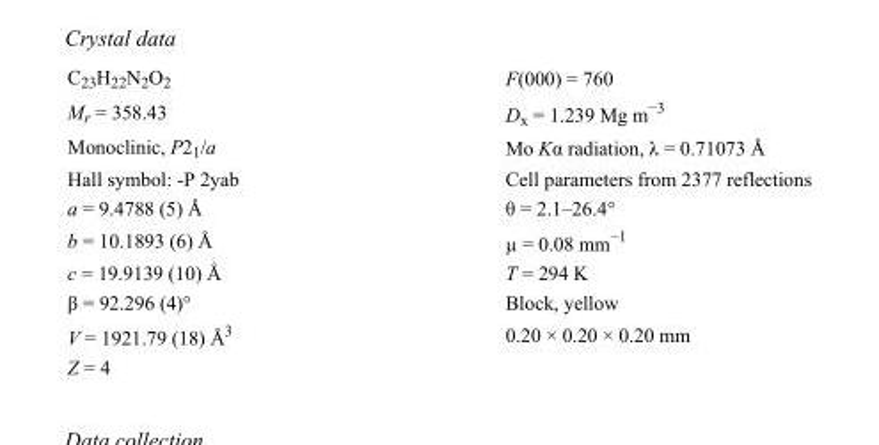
<table><tbody><tr><td>C<sub>23</sub>H<sub>22</sub>N<sub>2</sub>O<sub>2</sub></td><td>F(000) = 760</td></tr><tr><td>M<sub>r</sub> = 358.43</td><td>D<sub>x</sub> = 1.239 Mg m<sup>−3</sup></td></tr><tr><td>Monoclinic, P2<sub>1</sub>/a</td><td>Mo Kα radiation, λ = 0.71073 Å</td></tr><tr><td>Hall symbol: -P 2yab</td><td>Cell parameters from 2377 reflections</td></tr><tr><td>a = 9.4788 (5) Å</td><td>θ = 2.1–26.4°</td></tr><tr><td>b = 10.1893 (6) Å</td><td>µ = 0.08 mm<sup>−1</sup></td></tr><tr><td>c = 19.9139 (10) Å</td><td>T = 294 K</td></tr><tr><td>β = 92.296 (4)°</td><td>Block, yellow</td></tr><tr><td>V = 1921.79 (18) Å<sup>3</sup></td><td>0.20 × 0.20 × 0.20 mm</td></tr><tr><td>Z = 4</td><td></td></tr></tbody></table>